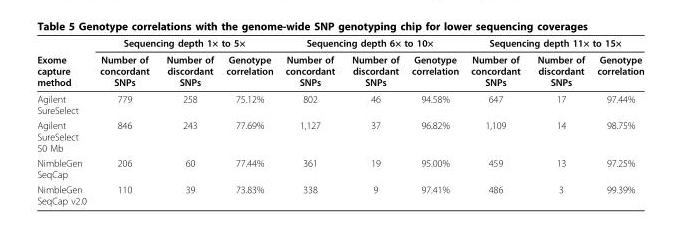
<table><thead><tr><td rowspan="2">Exome capture method</td><td colspan="3">Sequencing depth 1× to 5×</td><td colspan="3">Sequencing depth 6× to 10×</td><td colspan="3">Sequencing depth 11× to 15×</td></tr><tr><td>Number of concordant SNPs</td><td>Number of discordant SNPs</td><td>Genotype correlation</td><td>Number of concordant SNPs</td><td>Number of discordant SNPs</td><td>Genotype correlation</td><td>Number of concordant SNPs</td><td>Number of discordant SNPs</td><td>Genotype correlation</td></tr></thead><tbody><tr><td>Agilent SureSelect</td><td>779</td><td>258</td><td>75.12%</td><td>802</td><td>46</td><td>94.58%</td><td>647</td><td>17</td><td>97.44%</td></tr><tr><td>Agilent SureSelect 50 Mb</td><td>846</td><td>243</td><td>77.69%</td><td>1,127</td><td>37</td><td>96.82%</td><td>1,109</td><td>14</td><td>98.75%</td></tr><tr><td>NimbleGen SeqCap</td><td>206</td><td>60</td><td>77.44%</td><td>361</td><td>19</td><td>95.00%</td><td>459</td><td>13</td><td>97.25%</td></tr><tr><td>NimbleGen SeqCap v2.0</td><td>110</td><td>39</td><td>73.83%</td><td>338</td><td>9</td><td>97.41%</td><td>486</td><td>3</td><td>99.39%</td></tr></tbody></table>